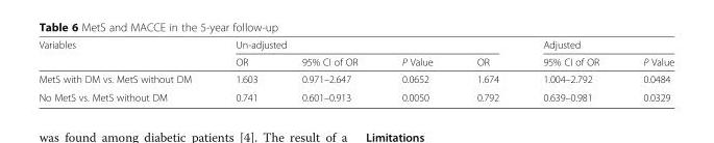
<table><thead><tr><td rowspan="2">Variables</td><td colspan="4">Un-adjusted</td><td colspan="2">Adjusted</td></tr><tr><td>OR</td><td>95% CI of OR</td><td>P Value</td><td>OR</td><td>95% CI of OR</td><td>P Value</td></tr></thead><tbody><tr><td>MetS with DM vs. MetS without DM</td><td>1.603</td><td>0.971–2.647</td><td>0.0652</td><td>1.674</td><td>1.004–2.792</td><td>0.0484</td></tr><tr><td>No MetS vs. MetS without DM</td><td>0.741</td><td>0.601–0.913</td><td>0.0050</td><td>0.792</td><td>0.639–0.981</td><td>0.0329</td></tr></tbody></table>